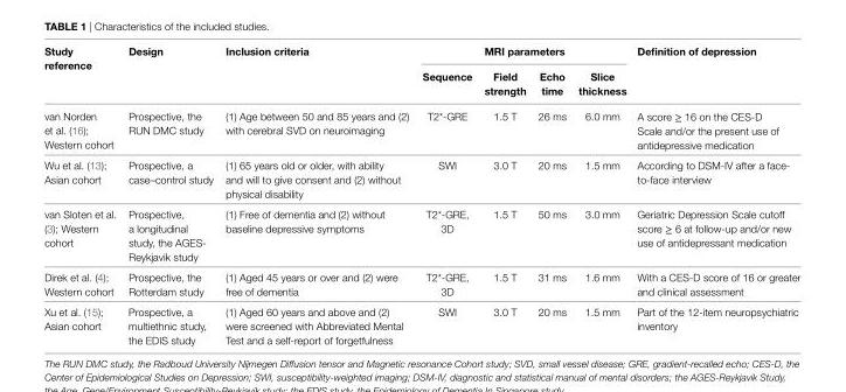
<table><thead><tr><td rowspan="2">Study reference</td><td rowspan="2">Design</td><td rowspan="2">inclusion criteria</td><td colspan="4">mRi parameters</td><td rowspan="2">Definition of depression</td></tr><tr><td>Sequence</td><td>Field strength</td><td>echo time</td><td>Slice thickness</td></tr></thead><tbody><tr><td>van Norden et al. (16); Western cohort</td><td>Prospective, the RUN DMC study</td><td>(1) Age between 50 and 85 years and (2) with cerebral SVD on neuroimaging</td><td>T2*-GRE</td><td>1.5 T</td><td>26 ms</td><td>6.0 mm</td><td>A score ≥ 16 on the CES-D Scale and/or the present use of antidepressive medication</td></tr><tr><td>Wu et al. (13); Asian cohort</td><td>Prospective, a case–control study</td><td>(1) 65 years old or older, with ability and will to give consent and (2) without physical disability</td><td>SWI</td><td>3.0 T</td><td>20 ms</td><td>1.5 mm</td><td>According to DSM-IV after a face- to-face interview</td></tr><tr><td>van Sloten et al. (3); Western cohort</td><td>Prospective, a longitudinal study, the AGES- Reykjavik study</td><td>(1) Free of dementia and (2) without baseline depressive symptoms</td><td>T2*-GRE, 3D</td><td>1.5 T</td><td>50 ms</td><td>3.0 mm</td><td>Geriatric Depression Scale cutoff score ≥ 6 at follow-up and/or new use of antidepressant medication</td></tr><tr><td>Direk et al. (4); Western cohort</td><td>Prospective, the Rotterdam study</td><td>(1) Aged 45 years or over and (2) were free of dementia</td><td>T2*-GRE, 3D</td><td>1.5 T</td><td>31 ms</td><td>1.6 mm</td><td>With a CES-D score of 16 or greater and clinical assessment</td></tr><tr><td>Xu et al. (15); Asian cohort</td><td>Prospective, a multiethnic study, the EDIS study</td><td>(1) Aged 60 years and above and (2) were screened with Abbreviated Mental Test and a self-report of forgetfulness</td><td>SWI</td><td>3.0 T</td><td>20 ms</td><td>1.5 mm</td><td>Part of the 12-item neuropsychiatric inventory</td></tr></tbody></table>